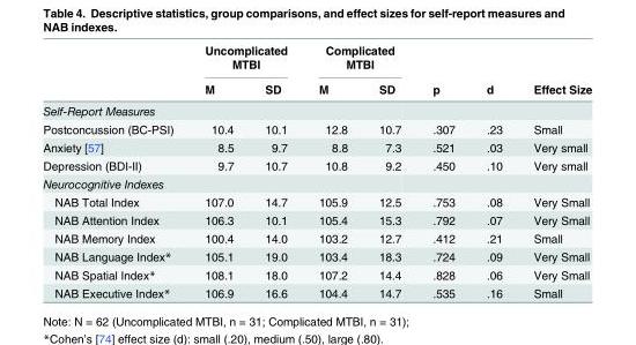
<table><thead><tr><td rowspan="2"></td><td colspan="2">Uncomplicated MTBI</td><td colspan="2">Complicated MTBI</td><td rowspan="2">p</td><td rowspan="2">d</td><td rowspan="2">Effect Size</td></tr><tr><td>M</td><td>SD</td><td>M</td><td>SD</td></tr></thead><tbody><tr><td colspan="8">Self-Report Measures</td></tr><tr><td>Postconcussion (BC-PSI)</td><td>10.4</td><td>10.1</td><td>12.8</td><td>10.7</td><td>.307</td><td>.23</td><td>Small</td></tr><tr><td>Anxiety [57]</td><td>8.5</td><td>9.7</td><td>8.8</td><td>7.3</td><td>.521</td><td>.03</td><td>Very small</td></tr><tr><td>Depression (BDI-II)</td><td>9.7</td><td>10.7</td><td>10.8</td><td>9.2</td><td>.450</td><td>.10</td><td>Very small</td></tr><tr><td colspan="8">Neurocognitive Indexes</td></tr><tr><td>NAB Total Index</td><td>107.0</td><td>14.7</td><td>105.9</td><td>12.5</td><td>.753</td><td>.08</td><td>Very Small</td></tr><tr><td>NAB Attention Index</td><td>106.3</td><td>10.1</td><td>105.4</td><td>15.3</td><td>.792</td><td>.07</td><td>Very Small</td></tr><tr><td>NAB Memory Index</td><td>100.4</td><td>14.0</td><td>103.2</td><td>12.7</td><td>.412</td><td>.21</td><td>Small</td></tr><tr><td>NAB Language Index*</td><td>105.1</td><td>19.0</td><td>103.4</td><td>18.3</td><td>.724</td><td>.09</td><td>Very Small</td></tr><tr><td>NAB Spatial Index*</td><td>108.1</td><td>18.0</td><td>107.2</td><td>14.4</td><td>.828</td><td>.06</td><td>Very Small</td></tr><tr><td>NAB Executive Index*</td><td>106.9</td><td>16.6</td><td>104.4</td><td>14.7</td><td>.535</td><td>.16</td><td>Small</td></tr></tbody></table>